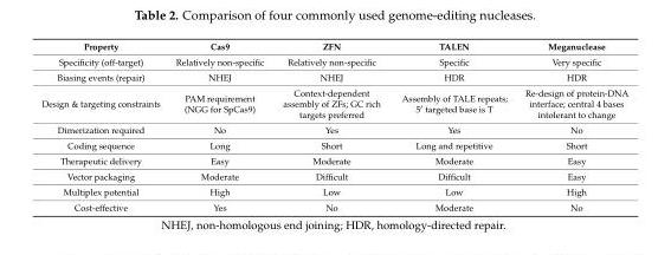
<table><thead><tr><td>Property</td><td>Cas9</td><td>ZFN</td><td>TALEN</td><td>Meganuclease</td></tr></thead><tbody><tr><td>Specificity (off-target)</td><td>Relatively non-specific</td><td>Relatively non-specific</td><td>Specific</td><td>Very specific</td></tr><tr><td>Biasing events (repair)</td><td>NHEJ</td><td>NHEJ</td><td>HDR</td><td>HDR</td></tr><tr><td>Design &amp; targeting constraints</td><td>PAM requirement (NGG for SpCas9)</td><td>Context-dependent assembly of ZFs; GC rich targets preferred</td><td>Assembly of TALE repeats; 5′ targeted base is T</td><td>Re-design of protein-DNA interface; central 4 bases intolerant to change</td></tr><tr><td>Dimerization required</td><td>No</td><td>Yes</td><td>Yes</td><td>No</td></tr><tr><td>Coding sequence</td><td>Long</td><td>Short</td><td>Long and repetitive</td><td>Short</td></tr><tr><td>Therapeutic delivery</td><td>Easy</td><td>Moderate</td><td>Moderate</td><td>Easy</td></tr><tr><td>Vector packaging</td><td>Moderate</td><td>Difficult</td><td>Difficult</td><td>Easy</td></tr><tr><td>Multiplex potential</td><td>High</td><td>Low</td><td>Low</td><td>High</td></tr><tr><td>Cost-effective</td><td>Yes</td><td>No</td><td>Moderate</td><td>No</td></tr></tbody></table>